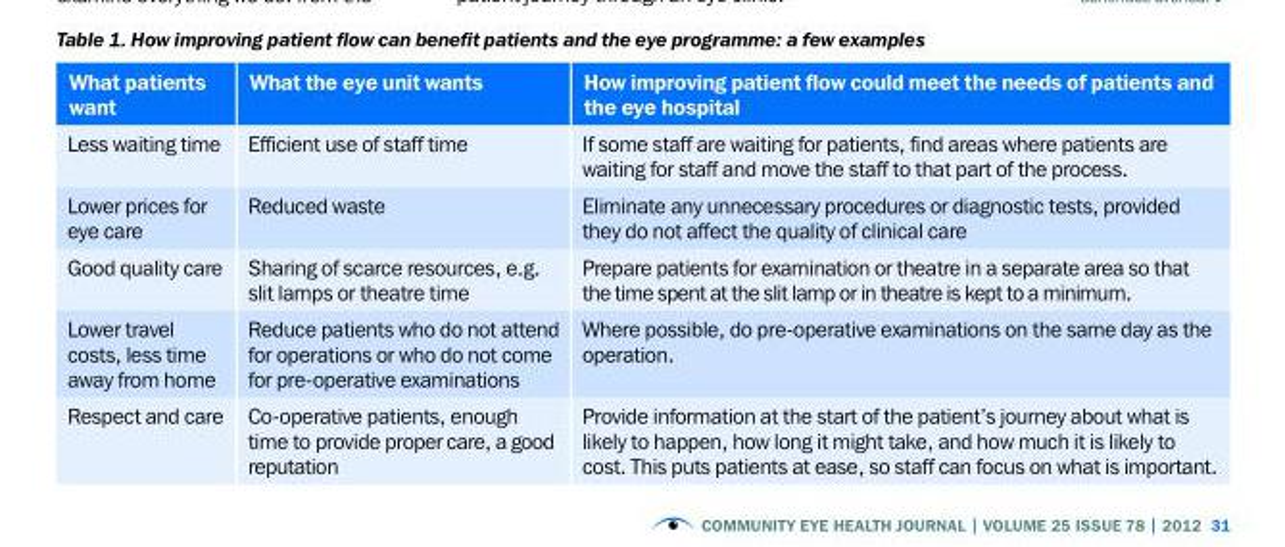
<table><thead><tr><td>What patients want</td><td>What the eye unit wants</td><td>How improving patient flow could meet the needs of patients and the eye hospital</td></tr></thead><tbody><tr><td>Less waiting time</td><td>Efficient use of staff time</td><td>If some staff are waiting for patients, find areas where patients are waiting for staff and move the staff to that part of the process.</td></tr><tr><td>Lower prices for eye care</td><td>Reduced waste</td><td>Eliminate any unnecessary procedures or diagnostic tests, provided they do not affect the quality of clinical care</td></tr><tr><td>Good quality care</td><td>Sharing of scarce resources, e.g. slit lamps or theatre time</td><td>Prepare patients for examination or theatre in a separate area so that the time spent at the slit lamp or in theatre is kept to a minimum.</td></tr><tr><td>Lower travel costs, less time away from home</td><td>Reduce patients who do not attend for operations or who do not come for pre-operative examinations</td><td>Where possible, do pre-operative examinations on the same day as the operation.</td></tr><tr><td>Respect and care</td><td>Co-operative patients, enough time to provide proper care, a good reputation</td><td>Provide information at the start of the patient’s journey about what is likely to happen, how long it might take, and how much it is likely to cost. This puts patients at ease, so staff can focus on what is important.</td></tr></tbody></table>